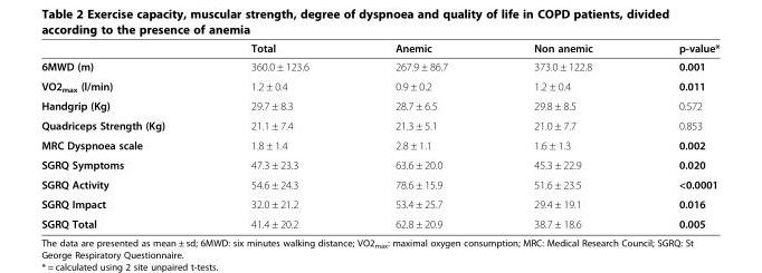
<table><thead><tr><td></td><td>Total</td><td>Anemic</td><td>Non anemic</td><td>p-value*</td></tr></thead><tbody><tr><td>6MWD (m)</td><td>360.0 ± 123.6</td><td>267.9 ± 86.7</td><td>373.0 ± 122.8</td><td>0.001</td></tr><tr><td>VO2<sub>max</sub> (l/min)</td><td>1.2 ± 0.4</td><td>0.9 ± 0.2</td><td>1.2 ± 0.4</td><td>0.011</td></tr><tr><td>Handgrip (Kg)</td><td>29.7 ± 8.3</td><td>28.7 ± 6.5</td><td>29.8 ± 8.5</td><td>0.572</td></tr><tr><td>Quadriceps Strength (Kg)</td><td>21.1 ± 7.4</td><td>21.3 ± 5.1</td><td>21.0 ± 7.7</td><td>0.853</td></tr><tr><td>MRC Dyspnoea scale</td><td>1.8 ± 1.4</td><td>2.8 ± 1.1</td><td>1.6 ± 1.3</td><td>0.002</td></tr><tr><td>SGRQ Symptoms</td><td>47.3 ± 23.3</td><td>63.6 ± 20.0</td><td>45.3 ± 22.9</td><td>0.020</td></tr><tr><td>SGRQ Activity</td><td>54.6 ± 24.3</td><td>78.6 ± 15.9</td><td>51.6 ± 23.5</td><td>&lt;0.0001</td></tr><tr><td>SGRQ Impact</td><td>32.0 ± 21.2</td><td>53.4 ± 25.7</td><td>29.4 ± 19.1</td><td>0.016</td></tr><tr><td>SGRQ Total</td><td>41.4 ± 20.2</td><td>62.8 ± 20.9</td><td>38.7 ± 18.6</td><td>0.005</td></tr></tbody></table>